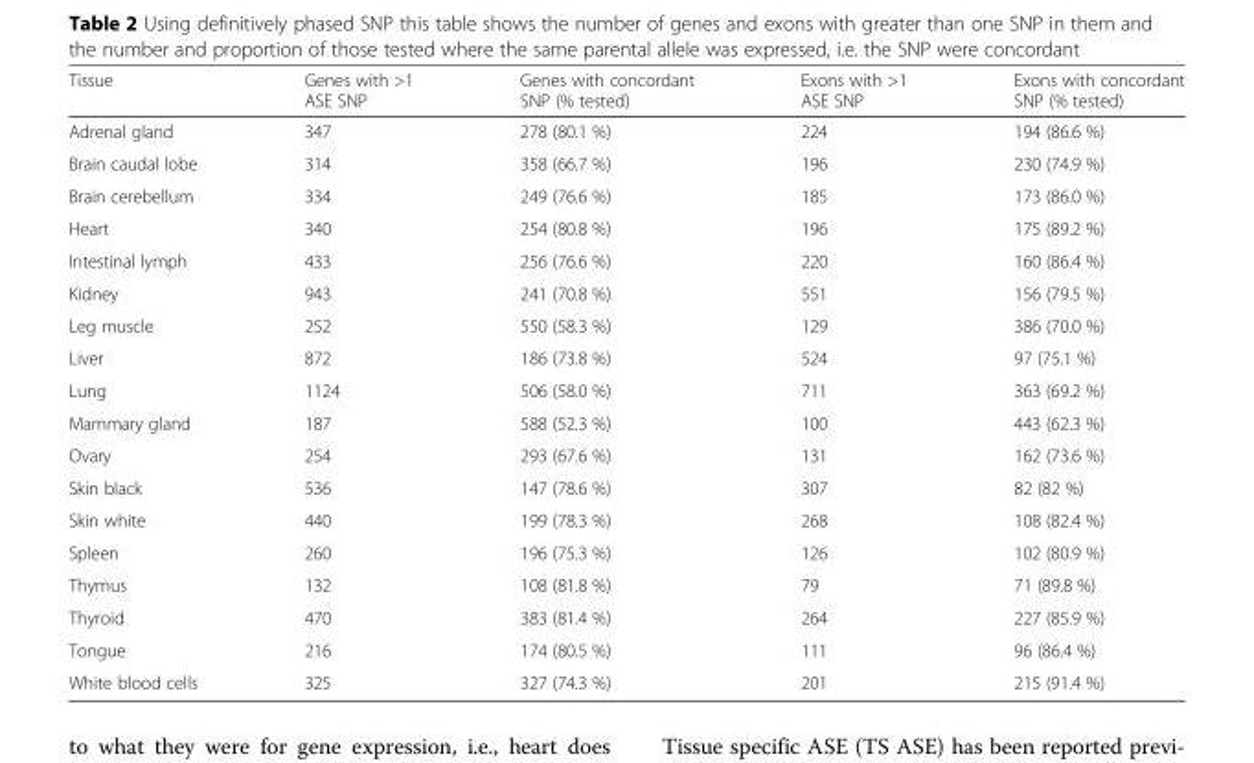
<table><thead><tr><td>Tissue</td><td>Genes with &gt;1 ASE SNP</td><td>Genes with concordant SNP (% tested)</td><td>Exons with &gt;1 ASE SNP</td><td>Exons with concordant SNP (% tested)</td></tr></thead><tbody><tr><td>Adrenal gland</td><td>347</td><td>278 (80.1 %)</td><td>224</td><td>194 (86.6 %)</td></tr><tr><td>Brain caudal lobe</td><td>314</td><td>358 (66.7 %)</td><td>196</td><td>230 (74.9 %)</td></tr><tr><td>Brain cerebellum</td><td>334</td><td>249 (76.6 %)</td><td>185</td><td>173 (86.0 %)</td></tr><tr><td>Heart</td><td>340</td><td>254 (80.8 %)</td><td>196</td><td>175 (89.2 %)</td></tr><tr><td>Intestinal lymph</td><td>433</td><td>256 (76.6 %)</td><td>220</td><td>160 (86.4 %)</td></tr><tr><td>Kidney</td><td>943</td><td>241 (70.8 %)</td><td>551</td><td>156 (79.5 %)</td></tr><tr><td>Leg muscle</td><td>252</td><td>550 (58.3 %)</td><td>129</td><td>386 (70.0 %)</td></tr><tr><td>Liver</td><td>872</td><td>186 (73.8 %)</td><td>524</td><td>97 (75.1 %)</td></tr><tr><td>Lung</td><td>1124</td><td>506 (58.0 %)</td><td>711</td><td>363 (69.2 %)</td></tr><tr><td>Mammary gland</td><td>187</td><td>588 (52.3 %)</td><td>100</td><td>443 (62.3 %)</td></tr><tr><td>Ovary</td><td>254</td><td>293 (67.6 %)</td><td>131</td><td>162 (73.6 %)</td></tr><tr><td>Skin black</td><td>536</td><td>147 (78.6 %)</td><td>307</td><td>82 (82 %)</td></tr><tr><td>Skin white</td><td>440</td><td>199 (78.3 %)</td><td>268</td><td>108 (82.4 %)</td></tr><tr><td>Spleen</td><td>260</td><td>196 (75.3 %)</td><td>126</td><td>102 (80.9 %)</td></tr><tr><td>Thymus</td><td>132</td><td>108 (81.8 %)</td><td>79</td><td>71 (89.8 %)</td></tr><tr><td>Thyroid</td><td>470</td><td>383 (81.4 %)</td><td>264</td><td>227 (85.9 %)</td></tr><tr><td>Tongue</td><td>216</td><td>174 (80.5 %)</td><td>111</td><td>96 (86.4 %)</td></tr><tr><td>White blood cells</td><td>325</td><td>327 (74.3 %)</td><td>201</td><td>215 (91.4 %)</td></tr></tbody></table>